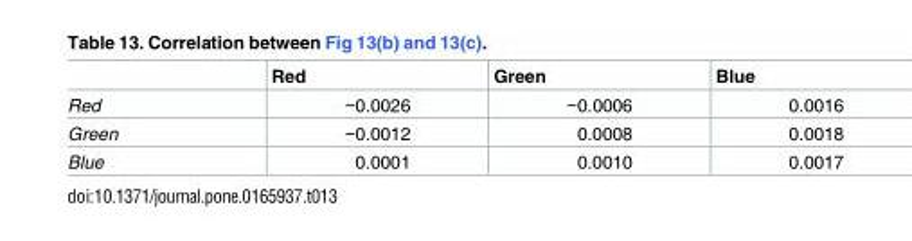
<table><thead><tr><td></td><td>Red</td><td>Green</td><td>Blue</td></tr></thead><tbody><tr><td>Red</td><td>−0.0026</td><td>−0.0006</td><td>0.0016</td></tr><tr><td>Green</td><td>−0.0012</td><td>0.0008</td><td>0.0018</td></tr><tr><td>Blue</td><td>0.0001</td><td>0.0010</td><td>0.0017</td></tr></tbody></table>